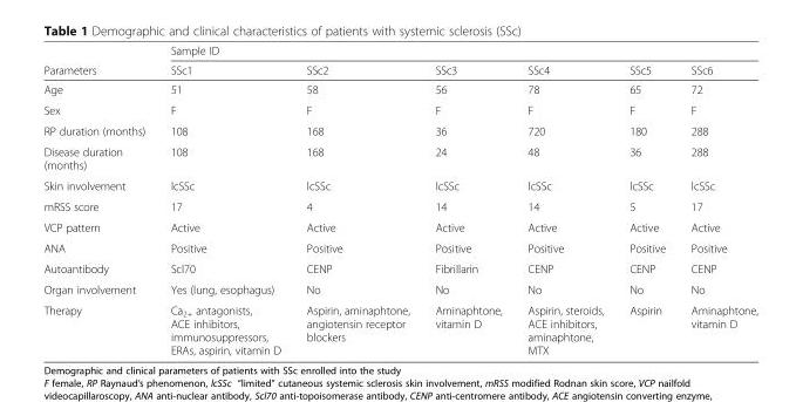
<table><thead><tr><td rowspan="2">Parameters</td><td colspan="6">Sample ID</td></tr><tr><td>SSc1</td><td>SSc2</td><td>SSc3</td><td>SSc4</td><td>SSc5</td><td>SSc6</td></tr></thead><tbody><tr><td>Age</td><td>51</td><td>58</td><td>56</td><td>78</td><td>65</td><td>72</td></tr><tr><td>Sex</td><td>F</td><td>F</td><td>F</td><td>F</td><td>F</td><td>F</td></tr><tr><td>RP duration (months)</td><td>108</td><td>168</td><td>36</td><td>720</td><td>180</td><td>288</td></tr><tr><td>Disease duration (months)</td><td>108</td><td>168</td><td>24</td><td>48</td><td>36</td><td>288</td></tr><tr><td>Skin involvement</td><td>lcSSc</td><td>lcSSc</td><td>lcSSc</td><td>lcSSc</td><td>lcSSc</td><td>lcSSc</td></tr><tr><td>mRSS score</td><td>17</td><td>4</td><td>14</td><td>14</td><td>5</td><td>17</td></tr><tr><td>VCP pattern</td><td>Active</td><td>Active</td><td>Active</td><td>Active</td><td>Active</td><td>Active</td></tr><tr><td>ANA</td><td>Positive</td><td>Positive</td><td>Positive</td><td>Positive</td><td>Positive</td><td>Positive</td></tr><tr><td>Autoantibody</td><td>Scl70</td><td>CENP</td><td>Fibrillarin</td><td>CENP</td><td>CENP</td><td>CENP</td></tr><tr><td>Organ involvement</td><td>Yes (lung, esophagus)</td><td>No</td><td>No</td><td>No</td><td>No</td><td>No</td></tr><tr><td>Therapy</td><td>Ca<sub>2+</sub> antagonists, ACE inhibitors, immunosuppressors, ERAs, aspirin, vitamin D</td><td>Aspirin, aminaphtone, angiotensin receptor blockers</td><td>Aminaphtone, vitamin D</td><td>Aspirin, steroids, ACE inhibitors, aminaphtone, MTX</td><td>Aspirin</td><td>Aminaphtone, vitamin D</td></tr></tbody></table>